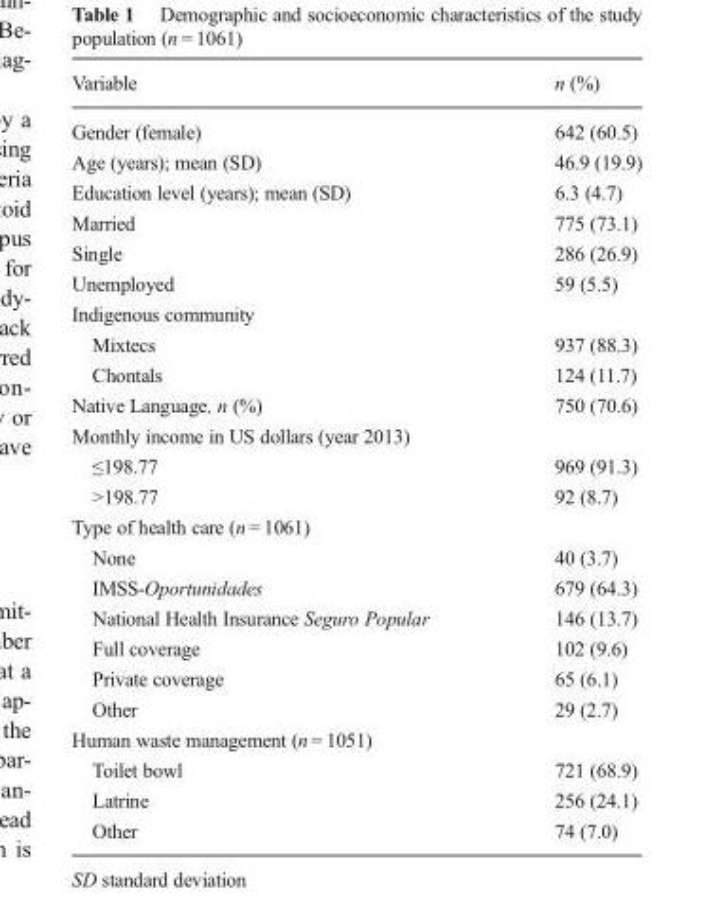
<table><thead><tr><td>Variable</td><td>n (%)</td></tr></thead><tbody><tr><td>Gender (female)</td><td>642 (60.5)</td></tr><tr><td>Age (years); mean (SD)</td><td>46.9 (19.9)</td></tr><tr><td>Education level (years); mean (SD)</td><td>6.3 (4.7)</td></tr><tr><td>Married</td><td>775 (73.1)</td></tr><tr><td>Single</td><td>286 (26.9)</td></tr><tr><td>Unemployed</td><td>59 (5.5)</td></tr><tr><td colspan="2">Indigenous community</td></tr><tr><td>Mixtecs</td><td>937 (88.3)</td></tr><tr><td>Chontals</td><td>124 (11.7)</td></tr><tr><td>Native Language, n (%)</td><td>750 (70.6)</td></tr><tr><td colspan="2">Monthly income in US dollars (year 2013)</td></tr><tr><td>≤198.77</td><td>969 (91.3)</td></tr><tr><td>&gt;198.77</td><td>92 (8.7)</td></tr><tr><td colspan="2">Type of health care (n = 1061)</td></tr><tr><td>None</td><td>40 (3.7)</td></tr><tr><td>IMSS-Oportunidades</td><td>679 (64.3)</td></tr><tr><td>National Health Insurance Seguro Popular</td><td>146 (13.7)</td></tr><tr><td>Full coverage</td><td>102 (9.6)</td></tr><tr><td>Private coverage</td><td>65 (6.1)</td></tr><tr><td>Other</td><td>29 (2.7)</td></tr><tr><td colspan="2">Human waste management (n = 1051)</td></tr><tr><td>Toilet bowl</td><td>721 (68.9)</td></tr><tr><td>Latrine</td><td>256 (24.1)</td></tr><tr><td>Other</td><td>74 (7.0)</td></tr></tbody></table>